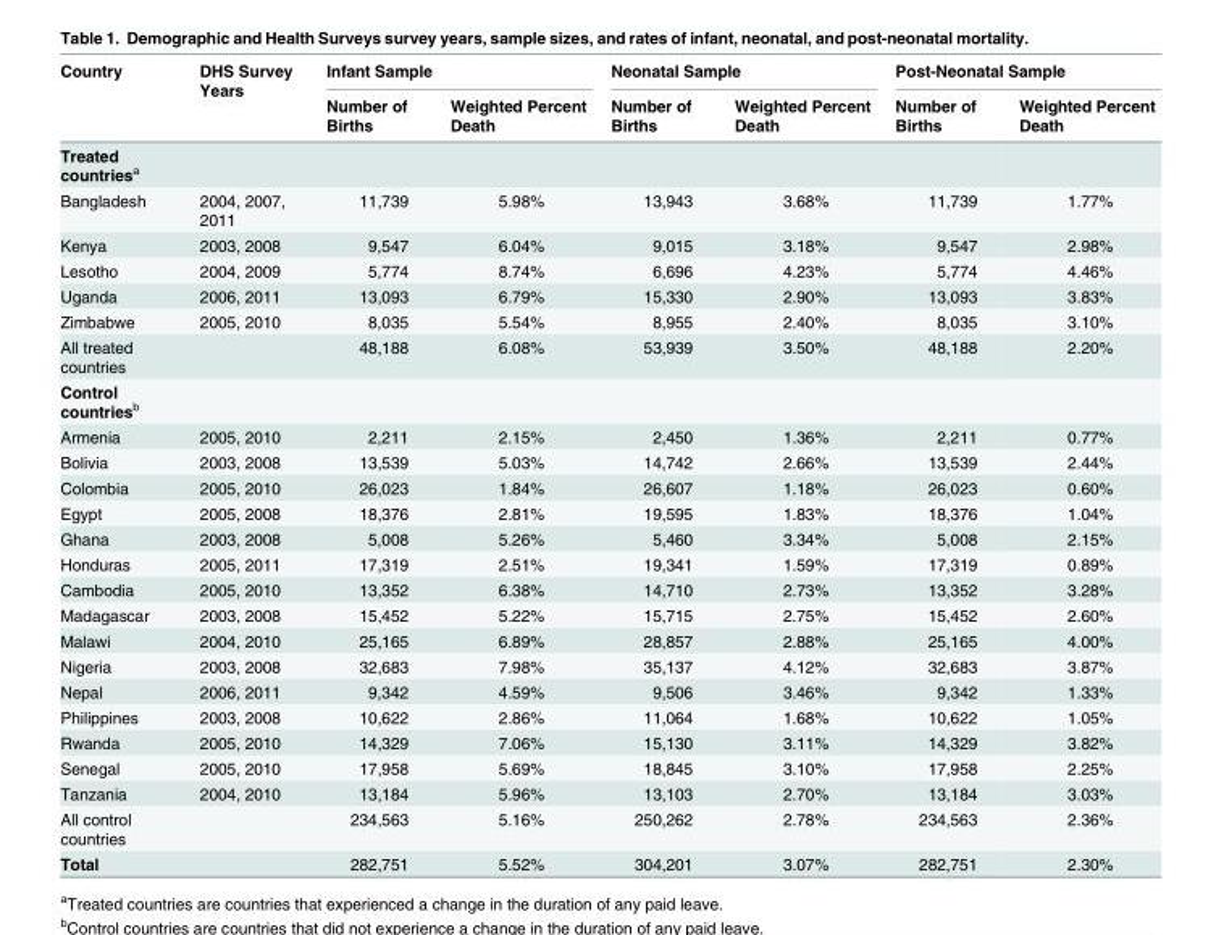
<table><thead><tr><td rowspan="2">Country</td><td rowspan="2">DHS Survey Years</td><td colspan="2">Infant Sample</td><td colspan="2">Neonatal Sample</td><td colspan="2">Post-Neonatal Sample</td></tr><tr><td>Number of Births</td><td>Weighted Percent Death</td><td>Number of Births</td><td>Weighted Percent Death</td><td>Number of Births</td><td>Weighted Percent Death</td></tr></thead><tbody><tr><td colspan="8">Treated countries<sup>a</sup></td></tr><tr><td>Bangladesh</td><td>2004, 2007, 2011</td><td>11,739</td><td>5.98%</td><td>13,943</td><td>3.68%</td><td>11,739</td><td>1.77%</td></tr><tr><td>Kenya</td><td>2003, 2008</td><td>9,547</td><td>6.04%</td><td>9,015</td><td>3.18%</td><td>9,547</td><td>2.98%</td></tr><tr><td>Lesotho</td><td>2004, 2009</td><td>5,774</td><td>8.74%</td><td>6,696</td><td>4.23%</td><td>5,774</td><td>4.46%</td></tr><tr><td>Uganda</td><td>2006, 2011</td><td>13,093</td><td>6.79%</td><td>15,330</td><td>2.90%</td><td>13,093</td><td>3.83%</td></tr><tr><td>Zimbabwe</td><td>2005, 2010</td><td>8,035</td><td>5.54%</td><td>8,955</td><td>2.40%</td><td>8,035</td><td>3.10%</td></tr><tr><td>All treated countries</td><td></td><td>48,188</td><td>6.08%</td><td>53,939</td><td>3.50%</td><td>48,188</td><td>2.20%</td></tr><tr><td colspan="8">Control countries<sup>b</sup></td></tr><tr><td>Armenia</td><td>2005, 2010</td><td>2,211</td><td>2.15%</td><td>2,450</td><td>1.36%</td><td>2,211</td><td>0.77%</td></tr><tr><td>Bolivia</td><td>2003, 2008</td><td>13,539</td><td>5.03%</td><td>14,742</td><td>2.66%</td><td>13,539</td><td>2.44%</td></tr><tr><td>Colombia</td><td>2005, 2010</td><td>26,023</td><td>1.84%</td><td>26,607</td><td>1.18%</td><td>26,023</td><td>0.60%</td></tr><tr><td>Egypt</td><td>2005, 2008</td><td>18,376</td><td>2.81%</td><td>19,595</td><td>1.83%</td><td>18,376</td><td>1.04%</td></tr><tr><td>Ghana</td><td>2003, 2008</td><td>5,008</td><td>5.26%</td><td>5,460</td><td>3.34%</td><td>5,008</td><td>2.15%</td></tr><tr><td>Honduras</td><td>2005, 2011</td><td>17,319</td><td>2.51%</td><td>19,341</td><td>1.59%</td><td>17,319</td><td>0.89%</td></tr><tr><td>Cambodia</td><td>2005, 2010</td><td>13,352</td><td>6.38%</td><td>14,710</td><td>2.73%</td><td>13,352</td><td>3.28%</td></tr><tr><td>Madagascar</td><td>2003, 2008</td><td>15,452</td><td>5.22%</td><td>15,715</td><td>2.75%</td><td>15,452</td><td>2.60%</td></tr><tr><td>Malawi</td><td>2004, 2010</td><td>25,165</td><td>6.89%</td><td>28,857</td><td>2.88%</td><td>25,165</td><td>4.00%</td></tr><tr><td>Nigeria</td><td>2003, 2008</td><td>32,683</td><td>7.98%</td><td>35,137</td><td>4.12%</td><td>32,683</td><td>3.87%</td></tr><tr><td>Nepal</td><td>2006, 2011</td><td>9,342</td><td>4.59%</td><td>9,506</td><td>3.46%</td><td>9,342</td><td>1.33%</td></tr><tr><td>Philippines</td><td>2003, 2008</td><td>10,622</td><td>2.86%</td><td>11,064</td><td>1.68%</td><td>10,622</td><td>1.05%</td></tr><tr><td>Rwanda</td><td>2005, 2010</td><td>14,329</td><td>7.06%</td><td>15,130</td><td>3.11%</td><td>14,329</td><td>3.82%</td></tr><tr><td>Senegal</td><td>2005, 2010</td><td>17,958</td><td>5.69%</td><td>18,845</td><td>3.10%</td><td>17,958</td><td>2.25%</td></tr><tr><td>Tanzania</td><td>2004, 2010</td><td>13,184</td><td>5.96%</td><td>13,103</td><td>2.70%</td><td>13,184</td><td>3.03%</td></tr><tr><td>All control countries</td><td></td><td>234,563</td><td>5.16%</td><td>250,262</td><td>2.78%</td><td>234,563</td><td>2.36%</td></tr><tr><td>Total</td><td></td><td>282,751</td><td>5.52%</td><td>304,201</td><td>3.07%</td><td>282,751</td><td>2.30%</td></tr></tbody></table>